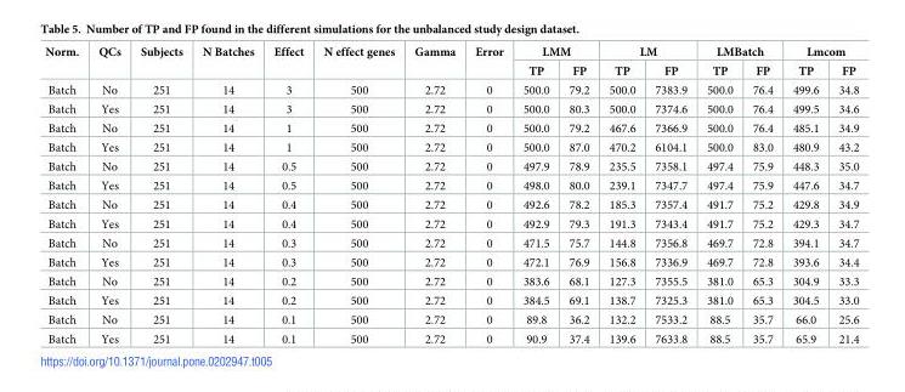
<table><thead><tr><td rowspan="2">Norm.</td><td rowspan="2">QCs</td><td rowspan="2">Subjects</td><td rowspan="2">N Batches</td><td rowspan="2">Effect</td><td rowspan="2">N effect genes</td><td rowspan="2">Gamma</td><td rowspan="2">Error</td><td colspan="2">LMM</td><td colspan="2">LM</td><td colspan="2">LMBatch</td><td colspan="2">Lmcom</td></tr><tr><td>TP</td><td>FP</td><td>TP</td><td>FP</td><td>TP</td><td>FP</td><td>TP</td><td>FP</td></tr></thead><tbody><tr><td>Batch</td><td>No</td><td>251</td><td>14</td><td>3</td><td>500</td><td>2.72</td><td>0</td><td>500.0</td><td>79.2</td><td>500.0</td><td>7383.9</td><td>500.0</td><td>76.4</td><td>499.6</td><td>34.8</td></tr><tr><td>Batch</td><td>Yes</td><td>251</td><td>14</td><td>3</td><td>500</td><td>2.72</td><td>0</td><td>500.0</td><td>80.3</td><td>500.0</td><td>7374.6</td><td>500.0</td><td>76.4</td><td>499.5</td><td>34.6</td></tr><tr><td>Batch</td><td>No</td><td>251</td><td>14</td><td>1</td><td>500</td><td>2.72</td><td>0</td><td>500.0</td><td>79.2</td><td>467.6</td><td>7366.9</td><td>500.0</td><td>76.4</td><td>485.1</td><td>34.9</td></tr><tr><td>Batch</td><td>Yes</td><td>251</td><td>14</td><td>1</td><td>500</td><td>2.72</td><td>0</td><td>500.0</td><td>87.0</td><td>470.2</td><td>6104.1</td><td>500.0</td><td>83.0</td><td>480.9</td><td>43.2</td></tr><tr><td>Batch</td><td>No</td><td>251</td><td>14</td><td>0.5</td><td>500</td><td>2.72</td><td>0</td><td>497.9</td><td>78.9</td><td>235.5</td><td>7358.1</td><td>497.4</td><td>75.9</td><td>448.3</td><td>35.0</td></tr><tr><td>Batch</td><td>Yes</td><td>251</td><td>14</td><td>0.5</td><td>500</td><td>2.72</td><td>0</td><td>498.0</td><td>80.0</td><td>239.1</td><td>7347.7</td><td>497.4</td><td>75.9</td><td>447.6</td><td>34.7</td></tr><tr><td>Batch</td><td>No</td><td>251</td><td>14</td><td>0.4</td><td>500</td><td>2.72</td><td>0</td><td>492.6</td><td>78.2</td><td>185.3</td><td>7357.4</td><td>491.7</td><td>75.2</td><td>429.8</td><td>34.9</td></tr><tr><td>Batch</td><td>Yes</td><td>251</td><td>14</td><td>0.4</td><td>500</td><td>2.72</td><td>0</td><td>492.9</td><td>79.3</td><td>191.3</td><td>7343.4</td><td>491.7</td><td>75.2</td><td>429.3</td><td>34.7</td></tr><tr><td>Batch</td><td>No</td><td>251</td><td>14</td><td>0.3</td><td>500</td><td>2.72</td><td>0</td><td>471.5</td><td>75.7</td><td>144.8</td><td>7356.8</td><td>469.7</td><td>72.8</td><td>394.1</td><td>34.7</td></tr><tr><td>Batch</td><td>Yes</td><td>251</td><td>14</td><td>0.3</td><td>500</td><td>2.72</td><td>0</td><td>472.1</td><td>76.9</td><td>156.8</td><td>7336.9</td><td>469.7</td><td>72.8</td><td>393.6</td><td>34.4</td></tr><tr><td>Batch</td><td>No</td><td>251</td><td>14</td><td>0.2</td><td>500</td><td>2.72</td><td>0</td><td>383.6</td><td>68.1</td><td>127.3</td><td>7355.5</td><td>381.0</td><td>65.3</td><td>304.9</td><td>33.3</td></tr><tr><td>Batch</td><td>Yes</td><td>251</td><td>14</td><td>0.2</td><td>500</td><td>2.72</td><td>0</td><td>384.5</td><td>69.1</td><td>138.7</td><td>7325.3</td><td>381.0</td><td>65.3</td><td>304.5</td><td>33.0</td></tr><tr><td>Batch</td><td>No</td><td>251</td><td>14</td><td>0.1</td><td>500</td><td>2.72</td><td>0</td><td>89.8</td><td>36.2</td><td>132.2</td><td>7533.2</td><td>88.5</td><td>35.7</td><td>66.0</td><td>25.6</td></tr><tr><td>Batch</td><td>Yes</td><td>251</td><td>14</td><td>0.1</td><td>500</td><td>2.72</td><td>0</td><td>90.9</td><td>37.4</td><td>139.6</td><td>7633.8</td><td>88.5</td><td>35.7</td><td>65.9</td><td>21.4</td></tr></tbody></table>